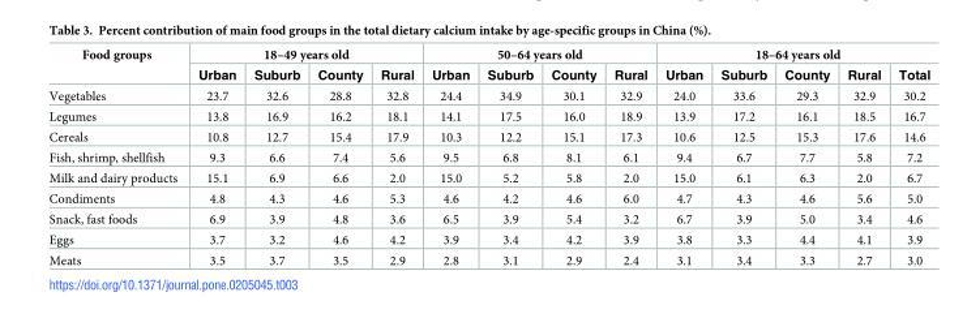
<table><thead><tr><td rowspan="2">Food groups</td><td colspan="4">18–49 years old</td><td colspan="4">50–64 years old</td><td colspan="5">18–64 years old</td></tr><tr><td>Urban</td><td>Suburb</td><td>County</td><td>Rural</td><td>Urban</td><td>Suburb</td><td>County</td><td>Rural</td><td>Urban</td><td>Suburb</td><td>County</td><td>Rural</td><td>Total</td></tr></thead><tbody><tr><td>Vegetables</td><td>23.7</td><td>32.6</td><td>28.8</td><td>32.8</td><td>24.4</td><td>34.9</td><td>30.1</td><td>32.9</td><td>24.0</td><td>33.6</td><td>29.3</td><td>32.9</td><td>30.2</td></tr><tr><td>Legumes</td><td>13.8</td><td>16.9</td><td>16.2</td><td>18.1</td><td>14.1</td><td>17.5</td><td>16.0</td><td>18.9</td><td>13.9</td><td>17.2</td><td>16.1</td><td>18.5</td><td>16.7</td></tr><tr><td>Cereals</td><td>10.8</td><td>12.7</td><td>15.4</td><td>17.9</td><td>10.3</td><td>12.2</td><td>15.1</td><td>17.3</td><td>10.6</td><td>12.5</td><td>15.3</td><td>17.6</td><td>14.6</td></tr><tr><td>Fish, shrimp, shellfish</td><td>9.3</td><td>6.6</td><td>7.4</td><td>5.6</td><td>9.5</td><td>6.8</td><td>8.1</td><td>6.1</td><td>9.4</td><td>6.7</td><td>7.7</td><td>5.8</td><td>7.2</td></tr><tr><td>Milk and dairy products</td><td>15.1</td><td>6.9</td><td>6.6</td><td>2.0</td><td>15.0</td><td>5.2</td><td>5.8</td><td>2.0</td><td>15.0</td><td>6.1</td><td>6.3</td><td>2.0</td><td>6.7</td></tr><tr><td>Condiments</td><td>4.8</td><td>4.3</td><td>4.6</td><td>5.3</td><td>4.6</td><td>4.2</td><td>4.6</td><td>6.0</td><td>4.7</td><td>4.3</td><td>4.6</td><td>5.6</td><td>5.0</td></tr><tr><td>Snack, fast foods</td><td>6.9</td><td>3.9</td><td>4.8</td><td>3.6</td><td>6.5</td><td>3.9</td><td>5.4</td><td>3.2</td><td>6.7</td><td>3.9</td><td>5.0</td><td>3.4</td><td>4.6</td></tr><tr><td>Eggs</td><td>3.7</td><td>3.2</td><td>4.6</td><td>4.2</td><td>3.9</td><td>3.4</td><td>4.2</td><td>3.9</td><td>3.8</td><td>3.3</td><td>4.4</td><td>4.1</td><td>3.9</td></tr><tr><td>Meats</td><td>3.5</td><td>3.7</td><td>3.5</td><td>2.9</td><td>2.8</td><td>3.1</td><td>2.9</td><td>2.4</td><td>3.1</td><td>3.4</td><td>3.3</td><td>2.7</td><td>3.0</td></tr></tbody></table>